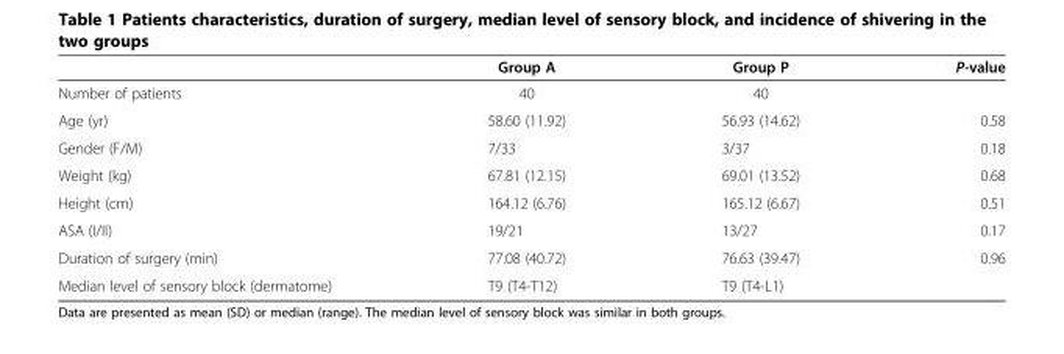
<table><thead><tr><td></td><td>Group A</td><td>Group P</td><td>P-value</td></tr></thead><tbody><tr><td>Number of patients</td><td>40</td><td>40</td><td></td></tr><tr><td>Age (yr)</td><td>58.60 (11.92)</td><td>56.93 (14.62)</td><td>0.58</td></tr><tr><td>Gender (F/M)</td><td>7/33</td><td>3/37</td><td>0.18</td></tr><tr><td>Weight (kg)</td><td>67.81 (12.15)</td><td>69.01 (13.52)</td><td>0.68</td></tr><tr><td>Height (cm)</td><td>164.12 (6.76)</td><td>165.12 (6.67)</td><td>0.51</td></tr><tr><td>ASA (I/II)</td><td>19/21</td><td>13/27</td><td>0.17</td></tr><tr><td>Duration of surgery (min)</td><td>77.08 (40.72)</td><td>76.63 (39.47)</td><td>0.96</td></tr><tr><td>Median level of sensory block (dermatome)</td><td>T9 (T4-T12)</td><td colspan="2">T9 (T4-L1)</td></tr></tbody></table>